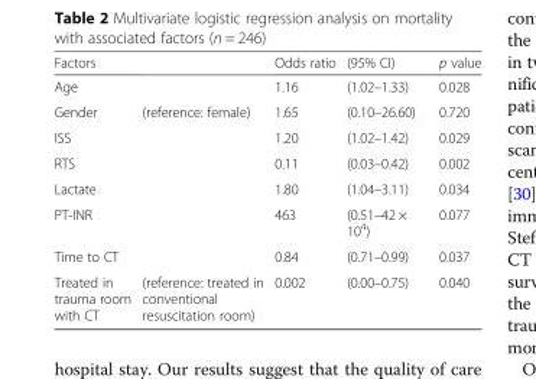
<table><thead><tr><td>Factors</td><td></td><td>Odds ratio</td><td>(95% CI)</td><td>p value</td></tr></thead><tbody><tr><td>Age</td><td></td><td>1.16</td><td>(1.02–1.33)</td><td>0.028</td></tr><tr><td>Gender</td><td>(reference: female)</td><td>1.65</td><td>(0.10–26.60)</td><td>0.720</td></tr><tr><td>ISS</td><td></td><td>1.20</td><td>(1.02–1.42)</td><td>0.029</td></tr><tr><td>RTS</td><td></td><td>0.11</td><td>(0.03–0.42)</td><td>0.002</td></tr><tr><td>Lactate</td><td></td><td>1.80</td><td>(1.04–3.11)</td><td>0.034</td></tr><tr><td>PT-INR</td><td></td><td>463</td><td>(0.51–42 × 10<sup>4</sup>)</td><td>0.077</td></tr><tr><td>Time to CT</td><td></td><td>0.84</td><td>(0.71–0.99)</td><td>0.037</td></tr><tr><td>Treated in trauma room with CT</td><td>(reference: treated in conventional resuscitation room)</td><td>0.002</td><td>(0.00–0.75)</td><td>0.040</td></tr></tbody></table>